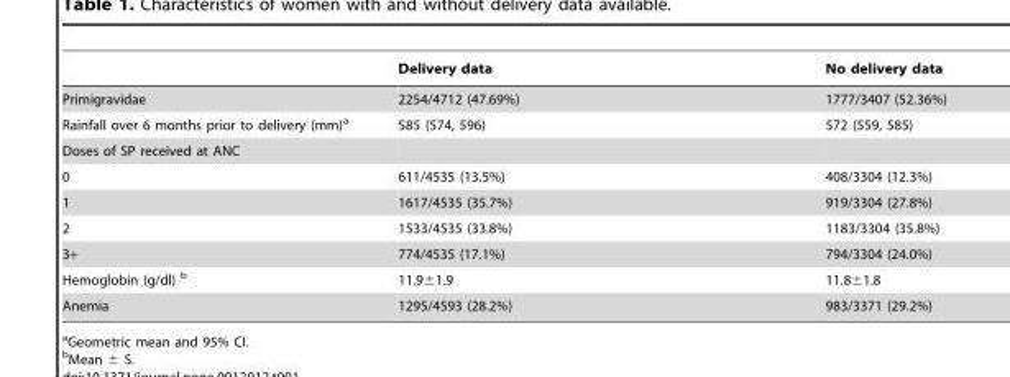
<table><thead><tr><td></td><td>Delivery data</td><td>No delivery data</td></tr></thead><tbody><tr><td>Primigravidae</td><td>2254/4712 (47.69%)</td><td>1777/3407 (52.36%)</td></tr><tr><td>Rainfall over 6 months prior to delivery (mm)<sup>a</sup></td><td>585 (574, 596)</td><td>572 (559, 585)</td></tr><tr><td colspan="3">Doses of SP received at ANC</td></tr><tr><td>0</td><td>611/4535 (13.5%)</td><td>408/3304 (12.3%)</td></tr><tr><td>1</td><td>1617/4535 (35.7%)</td><td>919/3304 (27.8%)</td></tr><tr><td>2</td><td>1533/4535 (33.8%)</td><td>1183/3304 (35.8%)</td></tr><tr><td>3+</td><td>774/4535 (17.1%)</td><td>794/3304 (24.0%)</td></tr><tr><td>Hemoglobin (g/dl) b</td><td>11.9±1.9</td><td>11.8±1.8</td></tr><tr><td>Anemia</td><td>1295/4593 (28.2%)</td><td>983/3371 (29.2%)</td></tr></tbody></table>